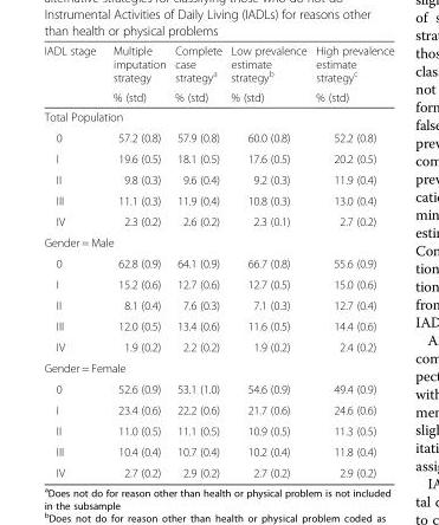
<table><thead><tr><td rowspan="2">IADL stage</td><td rowspan="2">Multiple imputation strategy % (std)</td><td rowspan="2">Complete case strategy<sup>a</sup> % (std)</td><td rowspan="2">Low prevalence estimate strategy<sup>b</sup> % (std)</td><td rowspan="2">High prevalence estimate strategy<sup>c</sup> % (std)</td></tr><tr></tr></thead><tbody><tr><td colspan="5">Total Population</td></tr><tr><td>0</td><td>57.2 (0.8)</td><td>57.9 (0.8)</td><td>60.0 (0.8)</td><td>52.2 (0.8)</td></tr><tr><td>I</td><td>19.6 (0.5)</td><td>18.1 (0.5)</td><td>17.6 (0.5)</td><td>20.2 (0.5)</td></tr><tr><td>II</td><td>9.8 (0.3)</td><td>9.6 (0.4)</td><td>9.2 (0.3)</td><td>11.9 (0.4)</td></tr><tr><td>III</td><td>11.1 (0.3)</td><td>11.9 (0.4)</td><td>10.8 (0.3)</td><td>13.0 (0.4)</td></tr><tr><td>IV</td><td>2.3 (0.2)</td><td>2.6 (0.2)</td><td>2.3 (0.1)</td><td>2.7 (0.2)</td></tr><tr><td colspan="5">Gender = Male</td></tr><tr><td>0</td><td>62.8 (0.9)</td><td>64.1 (0.9)</td><td>66.7 (0.8)</td><td>55.6 (0.9)</td></tr><tr><td>I</td><td>15.2 (0.6)</td><td>12.7 (0.6)</td><td>12.7 (0.5)</td><td>15.0 (0.6)</td></tr><tr><td>II</td><td>8.1 (0.4)</td><td>7.6 (0.3)</td><td>7.1 (0.3)</td><td>12.7 (0.4)</td></tr><tr><td>III</td><td>12.0 (0.5)</td><td>13.4 (0.6)</td><td>11.6 (0.5)</td><td>14.4 (0.6)</td></tr><tr><td>IV</td><td>1.9 (0.2)</td><td>2.2 (0.2)</td><td>1.9 (0.2)</td><td>2.4 (0.2)</td></tr><tr><td colspan="5">Gender = Female</td></tr><tr><td>0</td><td>52.6 (0.9)</td><td>53.1 (1.0)</td><td>54.6 (0.9)</td><td>49.4 (0.9)</td></tr><tr><td>I</td><td>23.4 (0.6)</td><td>22.2 (0.6)</td><td>21.7 (0.6)</td><td>24.6 (0.6)</td></tr><tr><td>II</td><td>11.0 (0.5)</td><td>11.1 (0.5)</td><td>10.9 (0.5)</td><td>11.3 (0.5)</td></tr><tr><td>III</td><td>10.4 (0.4)</td><td>10.7 (0.4)</td><td>10.2 (0.4)</td><td>11.8 (0.4)</td></tr><tr><td>IV</td><td>2.7 (0.2)</td><td>2.9 (0.2)</td><td>2.7 (0.2)</td><td>2.9 (0.2)</td></tr></tbody></table>